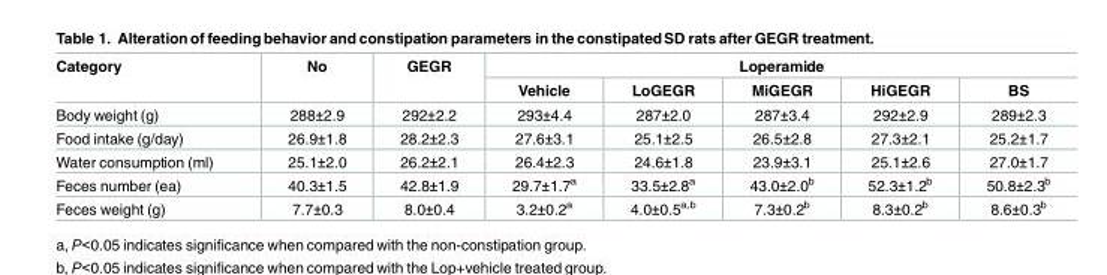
<table><thead><tr><td rowspan="2">Category</td><td rowspan="2">No</td><td rowspan="2">GEGR</td><td colspan="5">Loperamide</td></tr><tr><td>Vehicle</td><td>LoGEGR</td><td>MiGEGR</td><td>HiGEGR</td><td>BS</td></tr></thead><tbody><tr><td>Body weight (g)</td><td>288±2.9</td><td>292±2.2</td><td>293±4.4</td><td>287±2.0</td><td>287±3.4</td><td>292±2.9</td><td>289±2.3</td></tr><tr><td>Food intake (g/day)</td><td>26.9±1.8</td><td>28.2±2.3</td><td>27.6±3.1</td><td>25.1±2.5</td><td>26.5±2.8</td><td>27.3±2.1</td><td>25.2±1.7</td></tr><tr><td>Water consumption (ml)</td><td>25.1±2.0</td><td>26.2±2.1</td><td>26.4±2.3</td><td>24.6±1.8</td><td>23.9±3.1</td><td>25.1±2.6</td><td>27.0±1.7</td></tr><tr><td>Feces number (ea)</td><td>40.3±1.5</td><td>42.8±1.9</td><td>29.7±1.7<sup>a</sup></td><td>33.5±2.8<sup>a</sup></td><td>43.0±2.0<sup>b</sup></td><td>52.3±1.2<sup>b</sup></td><td>50.8±2.3<sup>b</sup></td></tr><tr><td>Feces weight (g)</td><td>7.7±0.3</td><td>8.0±0.4</td><td>3.2±0.2<sup>a</sup></td><td>4.0±0.5<sup>a,b</sup></td><td>7.3±0.2<sup>b</sup></td><td>8.3±0.2<sup>b</sup></td><td>8.6±0.3<sup>b</sup></td></tr></tbody></table>